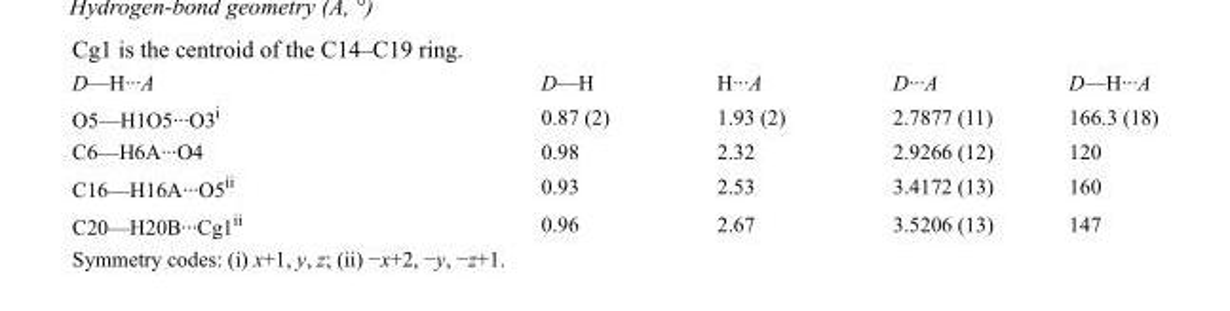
<table><tbody><tr><td>D—H···A</td><td>D—H</td><td>H···A</td><td>D···A</td><td>D—H···A</td></tr><tr><td>O5—H1O5···O3<sup>i</sup></td><td>0.87 (2)</td><td>1.93 (2)</td><td>2.7877 (11)</td><td>166.3 (18)</td></tr><tr><td>C6—H6A···O4</td><td>0.98</td><td>2.32</td><td>2.9266 (12)</td><td>120</td></tr><tr><td>C16—H16A···O5<sup>ii</sup></td><td>0.93</td><td>2.53</td><td>3.4172 (13)</td><td>160</td></tr><tr><td>C20—H20B···Cg1<sup>ii</sup></td><td>0.96</td><td>2.67</td><td>3.5206 (13)</td><td>147</td></tr></tbody></table>